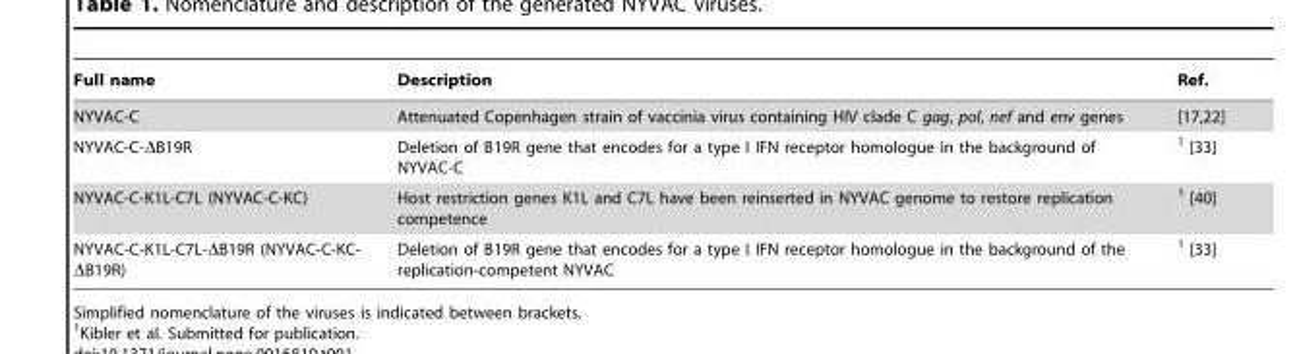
<table><thead><tr><td>Full name</td><td>Description</td><td>Ref.</td></tr></thead><tbody><tr><td>NYVAC-C</td><td>Attenuated Copenhagen strain of vaccinia virus containing HIV clade C gag, pol, nef and env genes</td><td>[17,22]</td></tr><tr><td>NYVAC-C-ΔB19R</td><td>Deletion of B19R gene that encodes for a type I IFN receptor homologue in the background of NYVAC-C</td><td>1 [33]</td></tr><tr><td>NYVAC-C-K1L-C7L (NYVAC-C-KC)</td><td>Host restriction genes K1L and C7L have been reinserted in NYVAC genome to restore replication competence</td><td>1 [40]</td></tr><tr><td>NYVAC-C-K1L-C7L-ΔB19R (NYVAC-C-KC- ΔB19R)</td><td>Deletion of B19R gene that encodes for a type I IFN receptor homologue in the background of the replication-competent NYVAC</td><td>1 [33]</td></tr></tbody></table>